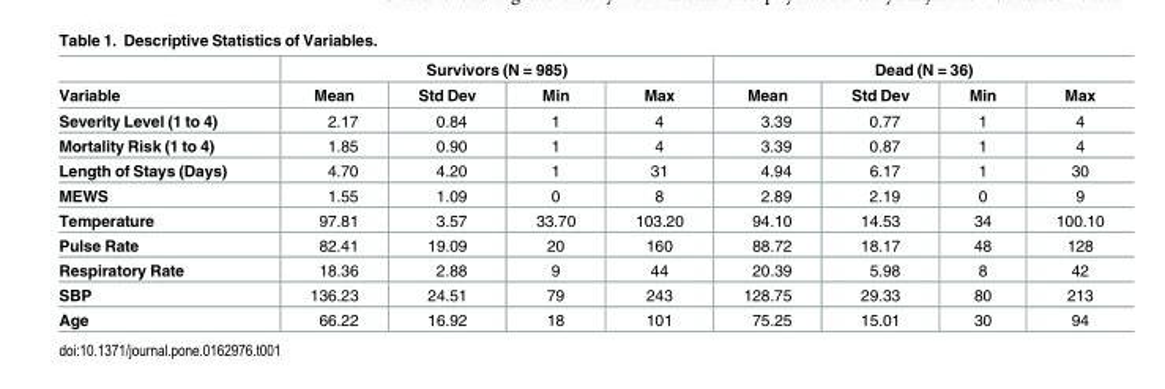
<table><thead><tr><td rowspan="2">Variable</td><td colspan="4">Survivors (N = 985)</td><td colspan="4">Dead (N = 36)</td></tr><tr><td>Mean</td><td>Std Dev</td><td>Min</td><td>Max</td><td>Mean</td><td>Std Dev</td><td>Min</td><td>Max</td></tr></thead><tbody><tr><td>Severity Level (1 to 4)</td><td>2.17</td><td>0.84</td><td>1</td><td>4</td><td>3.39</td><td>0.77</td><td>1</td><td>4</td></tr><tr><td>Mortality Risk (1 to 4)</td><td>1.85</td><td>0.90</td><td>1</td><td>4</td><td>3.39</td><td>0.87</td><td>1</td><td>4</td></tr><tr><td>Length of Stays (Days)</td><td>4.70</td><td>4.20</td><td>1</td><td>31</td><td>4.94</td><td>6.17</td><td>1</td><td>30</td></tr><tr><td>MEWS</td><td>1.55</td><td>1.09</td><td>0</td><td>8</td><td>2.89</td><td>2.19</td><td>0</td><td>9</td></tr><tr><td>Temperature</td><td>97.81</td><td>3.57</td><td>33.70</td><td>103.20</td><td>94.10</td><td>14.53</td><td>34</td><td>100.10</td></tr><tr><td>Pulse Rate</td><td>82.41</td><td>19.09</td><td>20</td><td>160</td><td>88.72</td><td>18.17</td><td>48</td><td>128</td></tr><tr><td>Respiratory Rate</td><td>18.36</td><td>2.88</td><td>9</td><td>44</td><td>20.39</td><td>5.98</td><td>8</td><td>42</td></tr><tr><td>SBP</td><td>136.23</td><td>24.51</td><td>79</td><td>243</td><td>128.75</td><td>29.33</td><td>80</td><td>213</td></tr><tr><td>Age</td><td>66.22</td><td>16.92</td><td>18</td><td>101</td><td>75.25</td><td>15.01</td><td>30</td><td>94</td></tr></tbody></table>